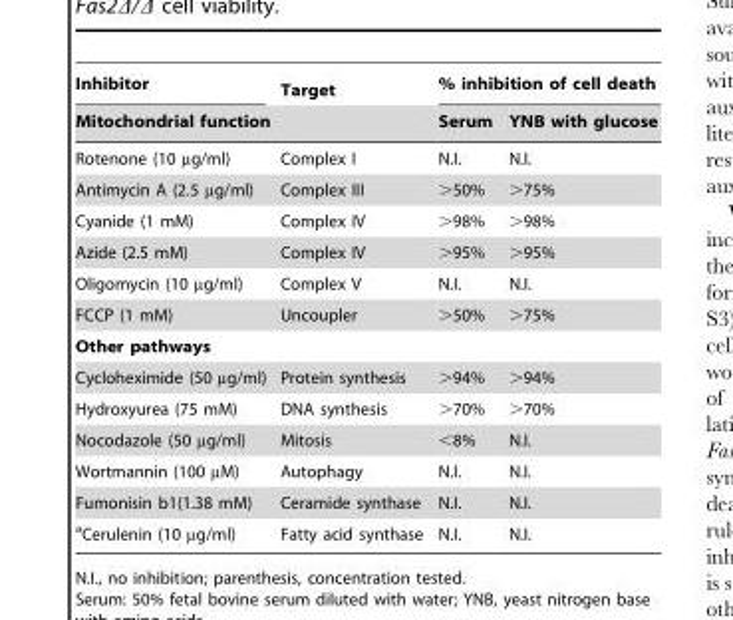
<table><thead><tr><td rowspan="2">Inhibitor Mitochondrial function</td><td rowspan="2">Target</td><td colspan="2">% inhibition of cell death</td></tr><tr><td>Serum</td><td>YNB with glucose</td></tr></thead><tbody><tr><td>Rotenone (10 µg/ml)</td><td>Complex I</td><td>N.I.</td><td>N.I.</td></tr><tr><td>Antimycin A (2.5 µg/ml)</td><td>Complex III</td><td>&gt;50%</td><td>&gt;75%</td></tr><tr><td>Cyanide (1 mM)</td><td>Complex IV</td><td>&gt;98%</td><td>&gt;98%</td></tr><tr><td>Azide (2.5 mM)</td><td>Complex IV</td><td>&gt;95%</td><td>&gt;95%</td></tr><tr><td>Oligomycin (10 µg/ml)</td><td>Complex V</td><td>N.I.</td><td>N.I.</td></tr><tr><td>FCCP (1 mM)</td><td>Uncoupler</td><td>&gt;50%</td><td>&gt;75%</td></tr><tr><td colspan="4">Other pathways</td></tr><tr><td>Cycloheximide (50 µg/ml)</td><td>Protein synthesis</td><td>&gt;94%</td><td>&gt;94%</td></tr><tr><td>Hydroxyurea (75 mM)</td><td>DNA synthesis</td><td>&gt;70%</td><td>&gt;70%</td></tr><tr><td>Nocodazole (50 µg/ml)</td><td>Mitosis</td><td>&lt;8%</td><td>N.I.</td></tr><tr><td>Wortmannin (100 µM)</td><td>Autophagy</td><td>N.I.</td><td>N.I.</td></tr><tr><td>Fumonisin b1(1.38 mM)</td><td>Ceramide synthase</td><td>N.I.</td><td>N.I.</td></tr><tr><td>aCerulenin (10 µg/ml)</td><td>Fatty acid synthase</td><td>N.I.</td><td>N.I.</td></tr></tbody></table>